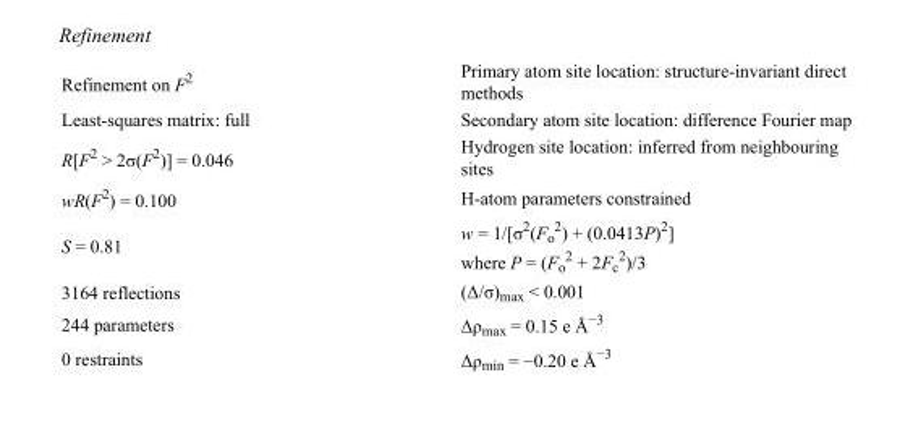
<table><tbody><tr><td>Refinement on F<sup>2</sup></td><td>Primary atom site location: structure-invariant direct methods</td></tr><tr><td>Least-squares matrix: full</td><td>Secondary atom site location: difference Fourier map</td></tr><tr><td>R[F<sup>2</sup> &gt; 2σ(F<sup>2</sup>)] = 0.046</td><td>Hydrogen site location: inferred from neighbouring sites</td></tr><tr><td>wR(F<sup>2</sup>) = 0.100</td><td>H-atom parameters constrained</td></tr><tr><td>S = 0.81</td><td>w = 1/[σ<sup>2</sup>(F<sub>o</sub> <sup>2</sup>) + (0.0413P)<sup>2</sup>] where P = (F<sub>o</sub> <sup>2</sup> + 2F<sub>c</sub> <sup>2</sup>)/3</td></tr><tr><td>3164 reflections</td><td>(Δ/σ)<sub>max</sub> &lt; 0.001</td></tr><tr><td>244 parameters</td><td>Δρ<sub>max</sub> = 0.15 e Å<sup>−3</sup></td></tr><tr><td>0 restraints</td><td>Δρ<sub>min</sub> = −0.20 e Å<sup>−3</sup></td></tr></tbody></table>